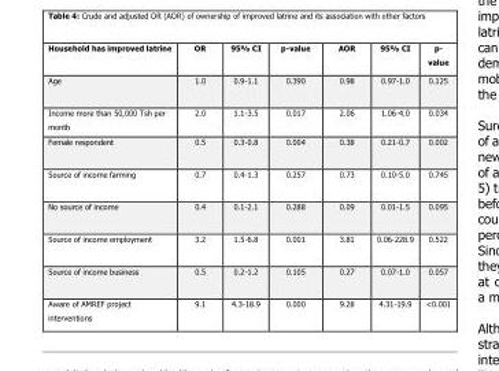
<table><thead><tr><td>Household has improved latrine</td><td>OR</td><td>95% CI</td><td>p-value</td><td>AOR</td><td>95% CI</td><td>p- value</td></tr></thead><tbody><tr><td>Age</td><td>1.0</td><td>0.9-1.1</td><td>0.390</td><td>0.98</td><td>0.97-1.0</td><td>0.125</td></tr><tr><td>Income more than 50,000 Tsh per month</td><td>2.0</td><td>1.1-3.5</td><td>0.017</td><td>2.06</td><td>1.06-4.0</td><td>0.034</td></tr><tr><td>Female respondent</td><td>0.5</td><td>0.3-0.8</td><td>0.004</td><td>0.38</td><td>0.21-0.7</td><td>0.002</td></tr><tr><td>Source of income farming</td><td>0.7</td><td>0.4-1.3</td><td>0.257</td><td>0.73</td><td>0.10-5.0</td><td>0.745</td></tr><tr><td>No source of income</td><td>0.4</td><td>0.1-2.1</td><td>0.288</td><td>0.09</td><td>0.01-1.5</td><td>0.095</td></tr><tr><td>Source of income employment</td><td>3.2</td><td>1.5-6.8</td><td>0.001</td><td>3.81</td><td>0.06-228.9</td><td>0.522</td></tr><tr><td>Source of income business</td><td>0.5</td><td>0.2-1.2</td><td>0.105</td><td>0.27</td><td>0.07-1.0</td><td>0.057</td></tr><tr><td>Aware of AMREF project interventions</td><td>9.1</td><td>4.3-18.9</td><td>0.000</td><td>9.28</td><td>4.31-19.9</td><td>&lt;0.001</td></tr></tbody></table>